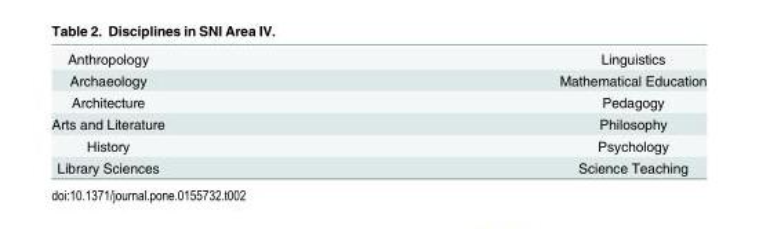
<table><tbody><tr><td>Anthropology</td><td>Linguistics</td></tr><tr><td>Archaeology</td><td>Mathematical Education</td></tr><tr><td>Architecture</td><td>Pedagogy</td></tr><tr><td>Arts and Literature</td><td>Philosophy</td></tr><tr><td>History</td><td>Psychology</td></tr><tr><td>Library Sciences</td><td>Science Teaching</td></tr></tbody></table>